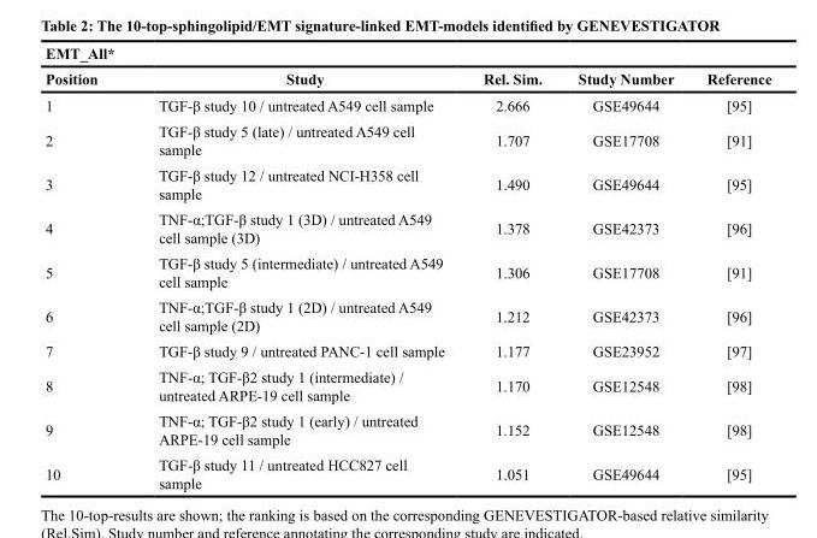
<table><thead><tr><td colspan="5">EMT_All*</td></tr><tr><td>Position</td><td>Study</td><td>Rel. Sim.</td><td>Study Number</td><td>Reference</td></tr></thead><tbody><tr><td>1</td><td>TGF-β study 10 / untreated A549 cell sample</td><td>2.666</td><td>GSE49644</td><td>[95]</td></tr><tr><td>2</td><td>TGF-β study 5 (late) / untreated A549 cell sample</td><td>1.707</td><td>GSE17708</td><td>[91]</td></tr><tr><td>3</td><td>TGF-β study 12 / untreated NCI-H358 cell sample</td><td>1.490</td><td>GSE49644</td><td>[95]</td></tr><tr><td>4</td><td>TNF-α;TGF-β study 1 (3D) / untreated A549 cell sample (3D)</td><td>1.378</td><td>GSE42373</td><td>[96]</td></tr><tr><td>5</td><td>TGF-β study 5 (intermediate) / untreated A549 cell sample</td><td>1.306</td><td>GSE17708</td><td>[91]</td></tr><tr><td>6</td><td>TNF-α;TGF-β study 1 (2D) / untreated A549 cell sample (2D)</td><td>1.212</td><td>GSE42373</td><td>[96]</td></tr><tr><td>7</td><td>TGF-β study 9 / untreated PANC-1 cell sample</td><td>1.177</td><td>GSE23952</td><td>[97]</td></tr><tr><td>8</td><td>TNF-α; TGF-β2 study 1 (intermediate) / untreated ARPE-19 cell sample</td><td>1.170</td><td>GSE12548</td><td>[98]</td></tr><tr><td>9</td><td>TNF-α; TGF-β2 study 1 (early) / untreated ARPE-19 cell sample</td><td>1.152</td><td>GSE12548</td><td>[98]</td></tr><tr><td>10</td><td>TGF-β study 11 / untreated HCC827 cell sample</td><td>1.051</td><td>GSE49644</td><td>[95]</td></tr></tbody></table>